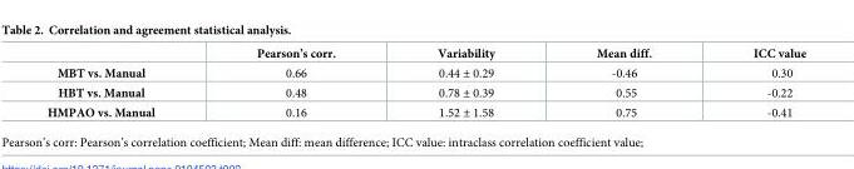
<table><thead><tr><td></td><td>Pearson’s corr.</td><td>Variability</td><td>Mean diff.</td><td>ICC value</td></tr></thead><tbody><tr><td>MBT vs. Manual</td><td>0.66</td><td>0.44 ± 0.29</td><td>-0.46</td><td>0.30</td></tr><tr><td>HBT vs. Manual</td><td>0.48</td><td>0.78 ± 0.39</td><td>0.55</td><td>-0.22</td></tr><tr><td>HMPAO vs. Manual</td><td>0.16</td><td>1.52 ± 1.58</td><td>0.75</td><td>-0.41</td></tr></tbody></table>